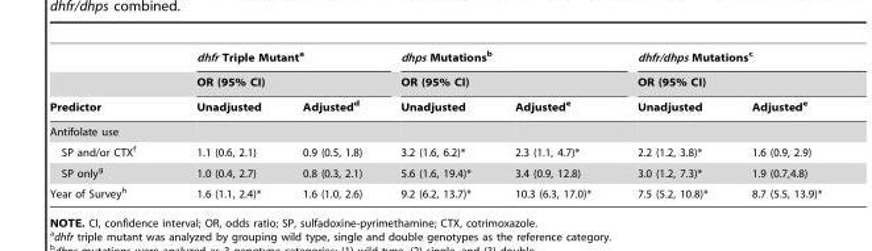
<table><thead><tr><td rowspan="3">Predictor</td><td rowspan="2" colspan="2">dhfr Triple Mutant<sup>a</sup> OR (95% CI)</td><td rowspan="2" colspan="2">dhps Mutations<sup>b</sup> OR (95% CI)</td><td rowspan="2" colspan="2">dhfr/dhps Mutations<sup>c</sup> OR (95% CI)</td></tr><tr></tr><tr><td>Unadjusted</td><td>Adjusted<sup>d</sup></td><td>Unadjusted</td><td>Adjusted<sup>e</sup></td><td>Unadjusted</td><td>Adjusted<sup>e</sup></td></tr></thead><tbody><tr><td colspan="7">Antifolate use</td></tr><tr><td>SP and/or CTX<sup>f</sup></td><td>1.1 (0.6, 2.1)</td><td>0.9 (0.5, 1.8)</td><td>3.2 (1.6, 6.2)*</td><td>2.3 (1.1, 4.7)*</td><td>2.2 (1.2, 3.8)*</td><td>1.6 (0.9, 2.9)</td></tr><tr><td>SP only<sup>g</sup></td><td>1.0 (0.4, 2.7)</td><td>0.8 (0.3, 2.1)</td><td>5.6 (1.6, 19.4)*</td><td>3.4 (0.9, 12.8)</td><td>3.0 (1.2, 7.3)*</td><td>1.9 (0.7,4.8)</td></tr><tr><td>Year of Survey<sup>h</sup></td><td>1.6 (1.1, 2.4)*</td><td>1.6 (1.0, 2.6)</td><td>9.2 (6.2, 13.7)*</td><td>10.3 (6.3, 17.0)*</td><td>7.5 (5.2, 10.8)*</td><td>8.7 (5.5, 13.9)*</td></tr></tbody></table>